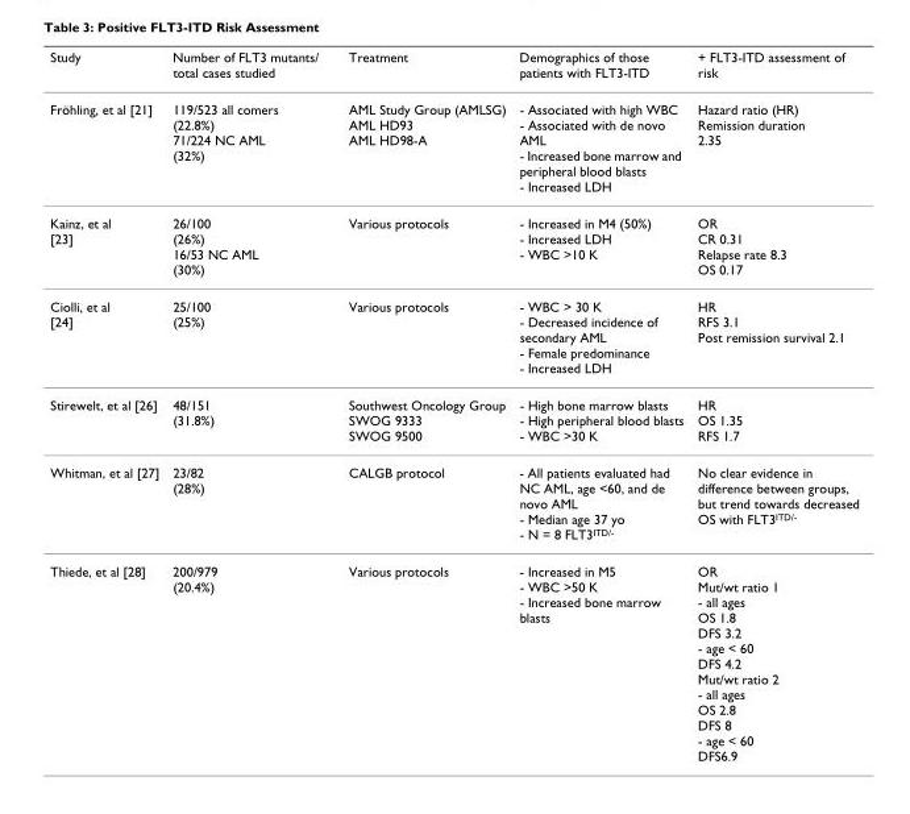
<table><thead><tr><td>Study</td><td>Number of FLT3 mutants/ total cases studied</td><td>Treatment</td><td>Demographics of those patients with FLT3-ITD</td><td>+ FLT3-ITD assessment of risk</td></tr></thead><tbody><tr><td>Fröhling, et al [21]</td><td>119/523 all comers (22.8%) 71/224 NC AML (32%)</td><td>AML Study Group (AMLSG) AML HD93 AML HD98-A</td><td>- Associated with high WBC - Associated with de novo AML - Increased bone marrow and peripheral blood blasts - Increased LDH</td><td>Hazard ratio (HR) Remission duration 2.35</td></tr><tr><td>Kainz, et al [23]</td><td>26/100 (26%) 16/53 NC AML (30%)</td><td>Various protocols</td><td>- Increased in M4 (50%) - Increased LDH - WBC &gt;10 K</td><td>OR CR 0.31 Relapse rate 8.3 OS 0.17</td></tr><tr><td>Ciolli, et al [24]</td><td>25/100 (25%)</td><td>Various protocols</td><td>- WBC &gt; 30 K - Decreased incidence of secondary AML - Female predominance - Increased LDH</td><td>HR RFS 3.1 Post remission survival 2.1</td></tr><tr><td>Stirewelt, et al [26]</td><td>48/151 (31.8%)</td><td>Southwest Oncology Group SWOG 9333 SWOG 9500</td><td>- High bone marrow blasts - High peripheral blood blasts - WBC &gt;30 K</td><td>HR OS 1.35 RFS 1.7</td></tr><tr><td>Whitman, et al [27]</td><td>23/82 (28%)</td><td>CALGB protocol</td><td>- All patients evaluated had NC AML, age &lt;60, and de novo AML - Median age 37 yo - N = 8 FLT3<sup>ITD/-</sup></td><td>No clear evidence in difference between groups, but trend towards decreased OS with FLT3<sup>ITD/-</sup></td></tr><tr><td>Thiede, et al [28]</td><td>200/979 (20.4%)</td><td>Various protocols</td><td>- Increased in M5 - WBC &gt;50 K - Increased bone marrow blasts</td><td>OR Mut/wt ratio 1 - all ages OS 1.8 DFS 3.2 - age &lt; 60 DFS 4.2 Mut/wt ratio 2 - all ages OS 2.8 DFS 8 - age &lt; 60 DFS6.9</td></tr></tbody></table>